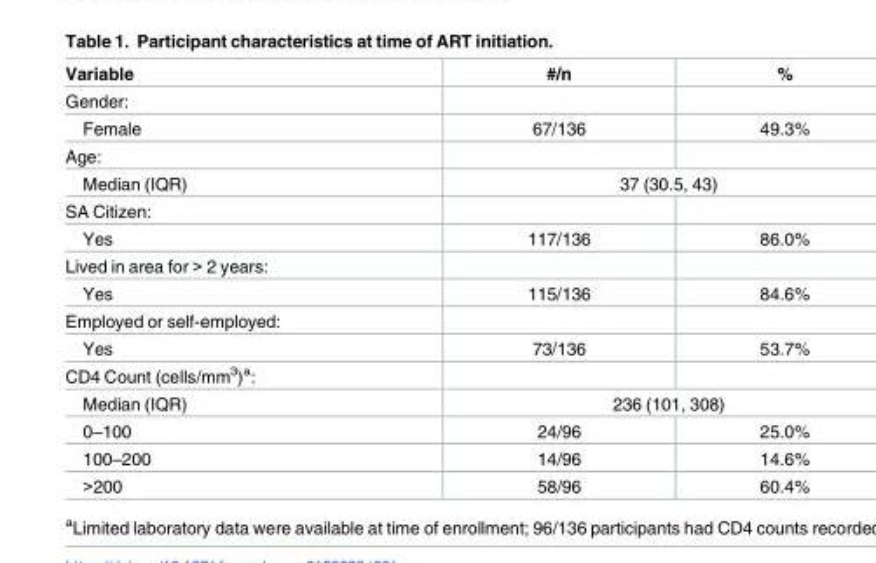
<table><thead><tr><td>Variable</td><td>#/n</td><td>%</td></tr></thead><tbody><tr><td colspan="3">Gender:</td></tr><tr><td>Female</td><td>67/136</td><td>49.3%</td></tr><tr><td colspan="3">Age:</td></tr><tr><td>Median (IQR)</td><td colspan="2">37 (30.5, 43)</td></tr><tr><td colspan="3">SA Citizen:</td></tr><tr><td>Yes</td><td>117/136</td><td>86.0%</td></tr><tr><td colspan="3">Lived in area for &gt; 2 years:</td></tr><tr><td>Yes</td><td>115/136</td><td>84.6%</td></tr><tr><td colspan="3">Employed or self-employed:</td></tr><tr><td>Yes</td><td>73/136</td><td>53.7%</td></tr><tr><td colspan="3">CD4 Count (cells/mm<sup>3</sup>)<sup>a</sup>:</td></tr><tr><td>Median (IQR)</td><td colspan="2">236 (101, 308)</td></tr><tr><td>0–100</td><td>24/96</td><td>25.0%</td></tr><tr><td>100–200</td><td>14/96</td><td>14.6%</td></tr><tr><td>&gt;200</td><td>58/96</td><td>60.4%</td></tr></tbody></table>